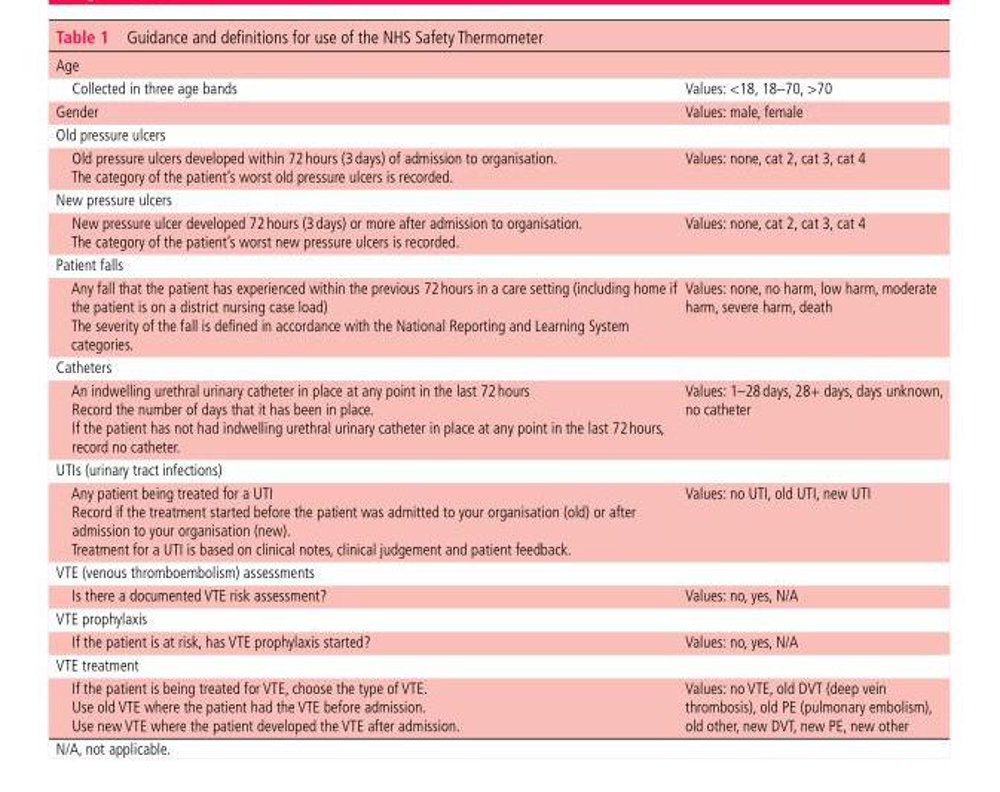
<table><tbody><tr><td colspan="2">Age</td></tr><tr><td>Collected in three age bands</td><td>Values: &lt;18, 18–70, &gt;70</td></tr><tr><td>Gender</td><td>Values: male, female</td></tr><tr><td colspan="2">Old pressure ulcers</td></tr><tr><td>Old pressure ulcers developed within 72 hours (3 days) of admission to organisation. The category of the patient’s worst old pressure ulcers is recorded.</td><td>Values: none, cat 2, cat 3, cat 4</td></tr><tr><td colspan="2">New pressure ulcers</td></tr><tr><td>New pressure ulcer developed 72 hours (3 days) or more after admission to organisation. The category of the patient’s worst new pressure ulcers is recorded.</td><td>Values: none, cat 2, cat 3, cat 4</td></tr><tr><td colspan="2">Patient falls</td></tr><tr><td>Any fall that the patient has experienced within the previous 72 hours in a care setting (including home if the patient is on a district nursing case load) The severity of the fall is defined in accordance with the National Reporting and Learning System categories.</td><td>Values: none, no harm, low harm, moderate harm, severe harm, death</td></tr><tr><td colspan="2">Catheters</td></tr><tr><td>An indwelling urethral urinary catheter in place at any point in the last 72 hours Record the number of days that it has been in place. If the patient has not had indwelling urethral urinary catheter in place at any point in the last 72 hours, record no catheter.</td><td>Values: 1–28 days, 28+ days, days unknown, no catheter</td></tr><tr><td colspan="2">UTIs (urinary tract infections)</td></tr><tr><td>Any patient being treated for a UTI Record if the treatment started before the patient was admitted to your organisation (old) or after admission to your organisation (new). Treatment for a UTI is based on clinical notes, clinical judgement and patient feedback.</td><td>Values: no UTI, old UTI, new UTI</td></tr><tr><td colspan="2">VTE (venous thromboembolism) assessments</td></tr><tr><td>Is there a documented VTE risk assessment?</td><td>Values: no, yes, N/A</td></tr><tr><td colspan="2">VTE prophylaxis</td></tr><tr><td>If the patient is at risk, has VTE prophylaxis started?</td><td>Values: no, yes, N/A</td></tr><tr><td colspan="2">VTE treatment</td></tr><tr><td>If the patient is being treated for VTE, choose the type of VTE. Use old VTE where the patient had the VTE before admission. Use new VTE where the patient developed the VTE after admission.</td><td>Values: no VTE, old DVT (deep vein thrombosis), old PE (pulmonary embolism), old other, new DVT, new PE, new other</td></tr></tbody></table>